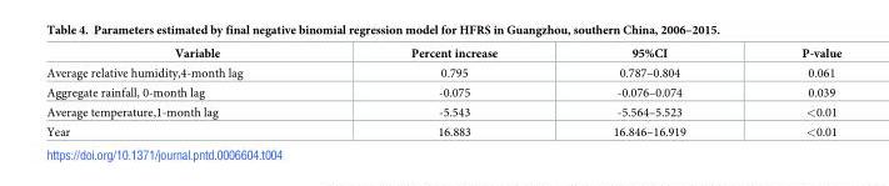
<table><thead><tr><td>Variable</td><td>Percent increase</td><td>95%CI</td><td>P-value</td></tr></thead><tbody><tr><td>Average relative humidity,4-month lag</td><td>0.795</td><td>0.787–0.804</td><td>0.061</td></tr><tr><td>Aggregate rainfall, 0-month lag</td><td>-0.075</td><td>-0.076–0.074</td><td>0.039</td></tr><tr><td>Average temperature,1-month lag</td><td>-5.543</td><td>-5.564–5.523</td><td>&lt;0.01</td></tr><tr><td>Year</td><td>16.883</td><td>16.846–16.919</td><td>&lt;0.01</td></tr></tbody></table>